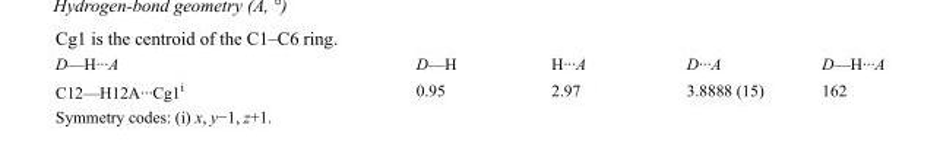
<table><tbody><tr><td>D—H···A</td><td>D—H</td><td>H···A</td><td>D···A</td><td>D—H···A</td></tr><tr><td>C12—H12A···Cg1<sup>i</sup></td><td>0.95</td><td>2.97</td><td>3.8888 (15)</td><td>162</td></tr></tbody></table>